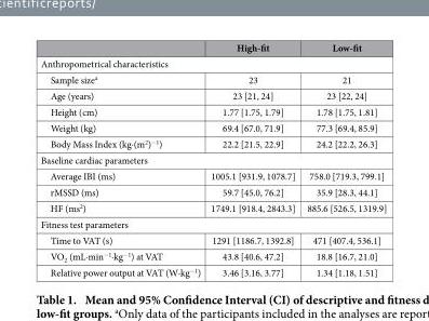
<table><thead><tr><td></td><td>High-fit</td><td>Low-fit</td></tr></thead><tbody><tr><td colspan="3">Anthropometrical characteristics</td></tr><tr><td>Sample size<sup>a</sup></td><td>23</td><td>21</td></tr><tr><td>Age (years)</td><td>23 [21, 24]</td><td>23 [22, 24]</td></tr><tr><td>Height (cm)</td><td>1.77 [1.75, 1.79]</td><td>1.78 [1.75, 1.81]</td></tr><tr><td>Weight (kg)</td><td>69.4 [67.0, 71.9]</td><td>77.3 [69.4, 85.9]</td></tr><tr><td>Body Mass Index (kg·(m<sup>2</sup>)<sup>−1</sup>)</td><td>22.2 [21.5, 22.9]</td><td>24.2 [22.2, 26.3]</td></tr><tr><td colspan="3">Baseline cardiac parameters</td></tr><tr><td>Average IBI (ms)</td><td>1005.1 [931.9, 1078.7]</td><td>758.0 [719.3, 799.1]</td></tr><tr><td>rMSSD (ms)</td><td>59.7 [45.0, 76.2]</td><td>35.9 [28.3, 44.1]</td></tr><tr><td>HF (ms<sup>2</sup>)</td><td>1749.1 [918.4, 2843.3]</td><td>885.6 [526.5, 1319.9]</td></tr><tr><td colspan="3">Fitness test parameters</td></tr><tr><td>Time to VAT (s)</td><td>1291 [1186.7, 1392.8]</td><td>471 [407.4, 536.1]</td></tr><tr><td>VO<sub>2</sub> (mL·min<sup>−1</sup>·kg<sup>−1</sup>) at VAT</td><td>43.8 [40.6, 47.2]</td><td>18.8 [16.7, 21.0]</td></tr><tr><td>Relative power output at VAT (W·kg<sup>−1</sup>)</td><td>3.46 [3.16, 3.77]</td><td>1.34 [1.18, 1.51]</td></tr></tbody></table>